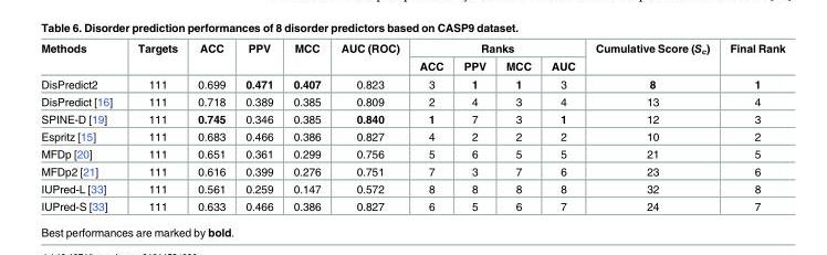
<table><thead><tr><td rowspan="2">Methods</td><td rowspan="2">Targets</td><td rowspan="2">ACC</td><td rowspan="2">PPV</td><td rowspan="2">MCC</td><td rowspan="2">AUC (ROC)</td><td colspan="4">Ranks</td><td rowspan="2">Cumulative Score (S<sub>c</sub>)</td><td rowspan="2">Final Rank</td></tr><tr><td>ACC</td><td>PPV</td><td>MCC</td><td>AUC</td></tr></thead><tbody><tr><td>DisPredict2</td><td>111</td><td>0.699</td><td>0.471</td><td>0.407</td><td>0.823</td><td>3</td><td>1</td><td>1</td><td>3</td><td>8</td><td>1</td></tr><tr><td>DisPredict [16]</td><td>111</td><td>0.718</td><td>0.389</td><td>0.385</td><td>0.809</td><td>2</td><td>4</td><td>3</td><td>4</td><td>13</td><td>4</td></tr><tr><td>SPINE-D [19]</td><td>111</td><td>0.745</td><td>0.346</td><td>0.385</td><td>0.840</td><td>1</td><td>7</td><td>3</td><td>1</td><td>12</td><td>3</td></tr><tr><td>Espritz [15]</td><td>111</td><td>0.683</td><td>0.466</td><td>0.386</td><td>0.827</td><td>4</td><td>2</td><td>2</td><td>2</td><td>10</td><td>2</td></tr><tr><td>MFDp [20]</td><td>111</td><td>0.651</td><td>0.361</td><td>0.299</td><td>0.756</td><td>5</td><td>6</td><td>5</td><td>5</td><td>21</td><td>5</td></tr><tr><td>MFDp2 [21]</td><td>111</td><td>0.616</td><td>0.399</td><td>0.276</td><td>0.751</td><td>7</td><td>3</td><td>7</td><td>6</td><td>23</td><td>6</td></tr><tr><td>IUPred-L [33]</td><td>111</td><td>0.561</td><td>0.259</td><td>0.147</td><td>0.572</td><td>8</td><td>8</td><td>8</td><td>8</td><td>32</td><td>8</td></tr><tr><td>IUPred-S [33]</td><td>111</td><td>0.633</td><td>0.466</td><td>0.386</td><td>0.827</td><td>6</td><td>5</td><td>6</td><td>7</td><td>24</td><td>7</td></tr></tbody></table>